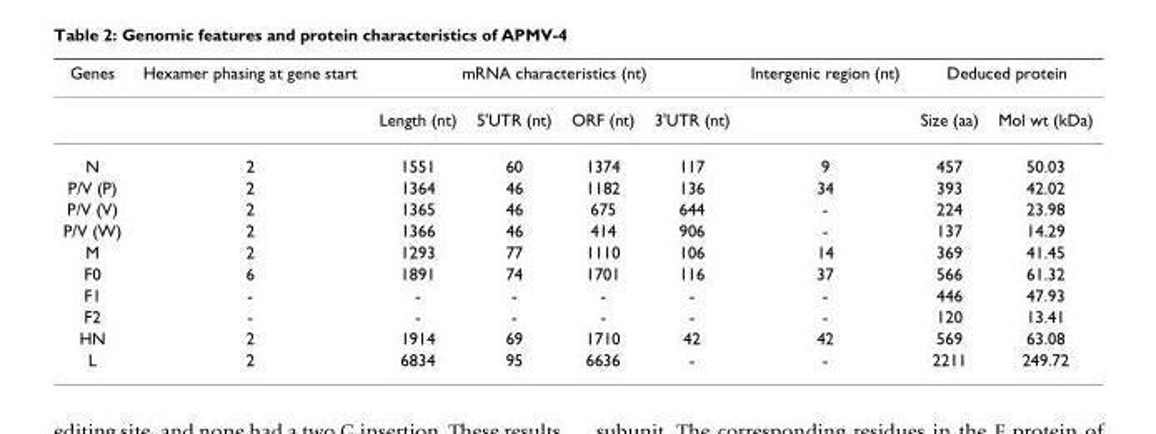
<table><thead><tr><td rowspan="2">Genes</td><td rowspan="2">Hexamer phasing at gene start</td><td colspan="4">mRNA characteristics (nt)</td><td rowspan="2">Intergenic region (nt)</td><td colspan="2">Deduced protein</td></tr><tr><td>Length (nt)</td><td>5&#x27;UTR (nt)</td><td>ORF (nt)</td><td>3&#x27;UTR (nt)</td><td>Size (aa)</td><td>Mol wt (kDa)</td></tr></thead><tbody><tr><td>N</td><td>2</td><td>1551</td><td>60</td><td>1374</td><td>117</td><td>9</td><td>457</td><td>50.03</td></tr><tr><td>P/V (P)</td><td>2</td><td>1364</td><td>46</td><td>1182</td><td>136</td><td>34</td><td>393</td><td>42.02</td></tr><tr><td>P/V (V)</td><td>2</td><td>1365</td><td>46</td><td>675</td><td>644</td><td>-</td><td>224</td><td>23.98</td></tr><tr><td>P/V (W)</td><td>2</td><td>1366</td><td>46</td><td>414</td><td>906</td><td>-</td><td>137</td><td>14.29</td></tr><tr><td>M</td><td>2</td><td>1293</td><td>77</td><td>1110</td><td>106</td><td>14</td><td>369</td><td>41.45</td></tr><tr><td>F0</td><td>6</td><td>1891</td><td>74</td><td>1701</td><td>116</td><td>37</td><td>566</td><td>61.32</td></tr><tr><td>F1</td><td>-</td><td>-</td><td>-</td><td>-</td><td>-</td><td>-</td><td>446</td><td>47.93</td></tr><tr><td>F2</td><td>-</td><td>-</td><td>-</td><td>-</td><td>-</td><td>-</td><td>120</td><td>13.41</td></tr><tr><td>HN</td><td>2</td><td>1914</td><td>69</td><td>1710</td><td>42</td><td>42</td><td>569</td><td>63.08</td></tr><tr><td>L</td><td>2</td><td>6834</td><td>95</td><td>6636</td><td>-</td><td>-</td><td>2211</td><td>249.72</td></tr></tbody></table>